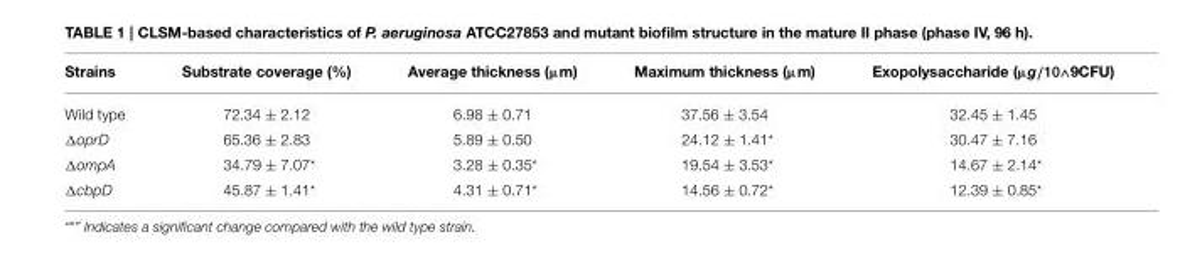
<table><thead><tr><td>Strains</td><td>Substrate coverage (%)</td><td>Average thickness (µm)</td><td>Maximum thickness (µm)</td><td>Exopolysaccharide (µg/10∧9CFU)</td></tr></thead><tbody><tr><td>Wild type</td><td>72.34 ± 2.12</td><td>6.98 ± 0.71</td><td>37.56 ± 3.54</td><td>32.45 ± 1.45</td></tr><tr><td>ΔoprD</td><td>65.36 ± 2.83</td><td>5.89 ± 0.50</td><td>24.12 ± 1.41*</td><td>30.47 ± 7.16</td></tr><tr><td>ΔompA</td><td>34.79 ± 7.07*</td><td>3.28 ± 0.35*</td><td>19.54 ± 3.53*</td><td>14.67 ± 2.14*</td></tr><tr><td>ΔcbpD</td><td>45.87 ± 1.41*</td><td>4.31 ± 0.71*</td><td>14.56 ± 0.72*</td><td>12.39 ± 0.85*</td></tr></tbody></table>